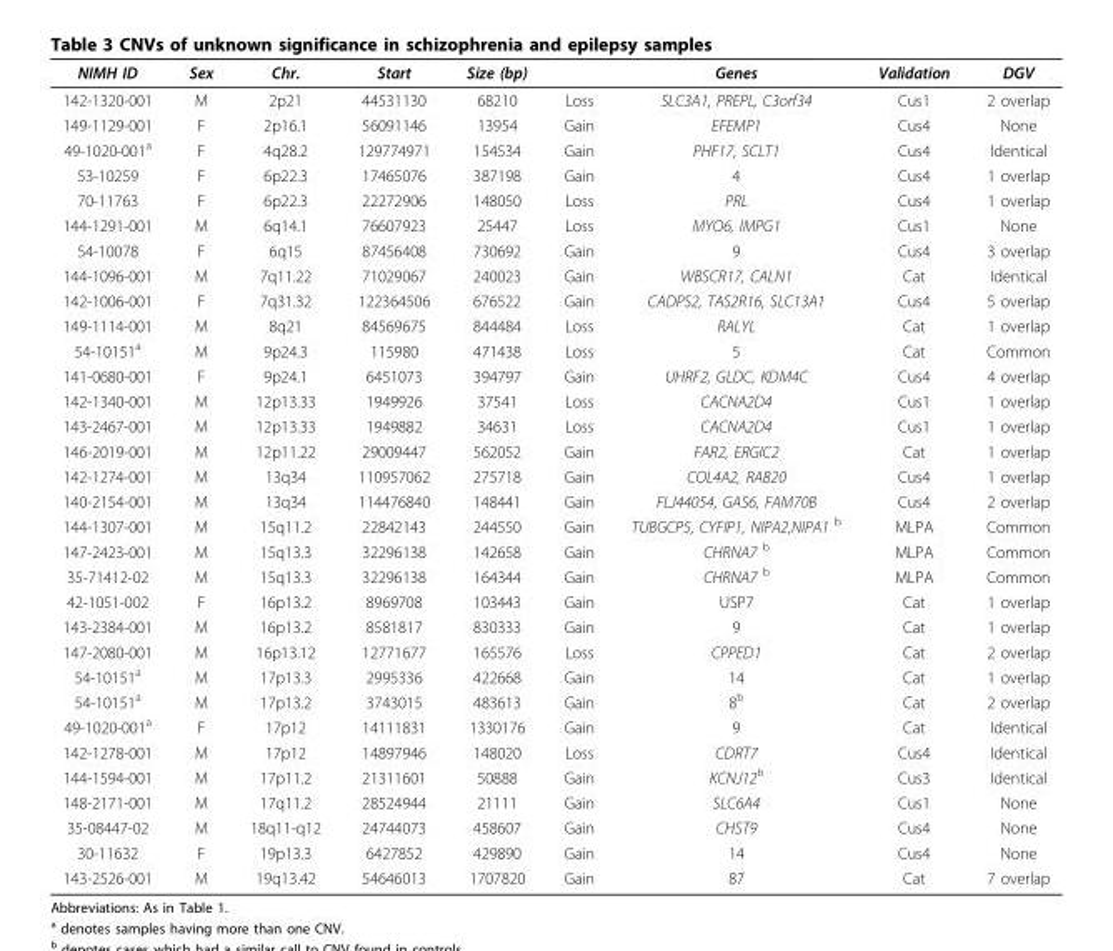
<table><thead><tr><td>NIMH ID</td><td>Sex</td><td>Chr.</td><td>Start</td><td>Size (bp)</td><td></td><td>Genes</td><td>Validation</td><td>DGV</td></tr></thead><tbody><tr><td>142-1320-001</td><td>M</td><td>2p21</td><td>44531130</td><td>68210</td><td>Loss</td><td>SLC3A1, PREPL, C3orf34</td><td>Cus1</td><td>2 overlap</td></tr><tr><td>149-1129-001</td><td>F</td><td>2p16.1</td><td>56091146</td><td>13954</td><td>Gain</td><td>EFEMP1</td><td>Cus4</td><td>None</td></tr><tr><td>49-1020-001<sup>a</sup></td><td>F</td><td>4q28.2</td><td>129774971</td><td>154534</td><td>Gain</td><td>PHF17, SCLT1</td><td>Cus4</td><td>Identical</td></tr><tr><td>53-10259</td><td>F</td><td>6p22.3</td><td>17465076</td><td>387198</td><td>Gain</td><td>4</td><td>Cus4</td><td>1 overlap</td></tr><tr><td>70-11763</td><td>F</td><td>6p22.3</td><td>22272906</td><td>148050</td><td>Loss</td><td>PRL</td><td>Cus4</td><td>1 overlap</td></tr><tr><td>144-1291-001</td><td>M</td><td>6q14.1</td><td>76607923</td><td>25447</td><td>Loss</td><td>MYO6, IMPG1</td><td>Cus1</td><td>None</td></tr><tr><td>54-10078</td><td>F</td><td>6q15</td><td>87456408</td><td>730692</td><td>Gain</td><td>9</td><td>Cus4</td><td>3 overlap</td></tr><tr><td>144-1096-001</td><td>M</td><td>7q11.22</td><td>71029067</td><td>240023</td><td>Gain</td><td>WBSCR17, CALN1</td><td>Cat</td><td>Identical</td></tr><tr><td>142-1006-001</td><td>F</td><td>7q31.32</td><td>122364506</td><td>676522</td><td>Gain</td><td>CADPS2, TAS2R16, SLC13A1</td><td>Cus4</td><td>5 overlap</td></tr><tr><td>149-1114-001</td><td>M</td><td>8q21</td><td>84569675</td><td>844484</td><td>Loss</td><td>RALYL</td><td>Cat</td><td>1 overlap</td></tr><tr><td>54-10151<sup>a</sup></td><td>M</td><td>9p24.3</td><td>115980</td><td>471438</td><td>Loss</td><td>5</td><td>Cat</td><td>Common</td></tr><tr><td>141-0680-001</td><td>F</td><td>9p24.1</td><td>6451073</td><td>394797</td><td>Gain</td><td>UHRF2, GLDC, KDM4C</td><td>Cus4</td><td>4 overlap</td></tr><tr><td>142-1340-001</td><td>M</td><td>12p13.33</td><td>1949926</td><td>37541</td><td>Loss</td><td>CACNA2D4</td><td>Cus1</td><td>1 overlap</td></tr><tr><td>143-2467-001</td><td>M</td><td>12p13.33</td><td>1949882</td><td>34631</td><td>Loss</td><td>CACNA2D4</td><td>Cus1</td><td>1 overlap</td></tr><tr><td>146-2019-001</td><td>M</td><td>12p11.22</td><td>29009447</td><td>562052</td><td>Gain</td><td>FAR2, ERGIC2</td><td>Cat</td><td>1 overlap</td></tr><tr><td>142-1274-001</td><td>M</td><td>13q34</td><td>110957062</td><td>275718</td><td>Gain</td><td>COL4A2, RAB20</td><td>Cus4</td><td>1 overlap</td></tr><tr><td>140-2154-001</td><td>M</td><td>13q34</td><td>114476840</td><td>148441</td><td>Gain</td><td>FLJ44054, GAS6, FAM70B</td><td>Cus4</td><td>2 overlap</td></tr><tr><td>144-1307-001</td><td>M</td><td>15q11.2</td><td>22842143</td><td>244550</td><td>Gain</td><td>TUBGCP5, CYFIP1, NIPA2,NIPA1 <sup>b</sup></td><td>MLPA</td><td>Common</td></tr><tr><td>147-2423-001</td><td>M</td><td>15q13.3</td><td>32296138</td><td>142658</td><td>Gain</td><td>CHRNA7 <sup>b</sup></td><td>MLPA</td><td>Common</td></tr><tr><td>35-71412-02</td><td>M</td><td>15q13.3</td><td>32296138</td><td>164344</td><td>Gain</td><td>CHRNA7 <sup>b</sup></td><td>MLPA</td><td>Common</td></tr><tr><td>42-1051-002</td><td>F</td><td>16p13.2</td><td>8969708</td><td>103443</td><td>Gain</td><td>USP7</td><td>Cat</td><td>1 overlap</td></tr><tr><td>143-2384-001</td><td>M</td><td>16p13.2</td><td>8581817</td><td>830333</td><td>Gain</td><td>9</td><td>Cat</td><td>1 overlap</td></tr><tr><td>147-2080-001</td><td>M</td><td>16p13.12</td><td>12771677</td><td>165576</td><td>Loss</td><td>CPPED1</td><td>Cat</td><td>2 overlap</td></tr><tr><td>54-10151<sup>a</sup></td><td>M</td><td>17p13.3</td><td>2995336</td><td>422668</td><td>Gain</td><td>14</td><td>Cat</td><td>1 overlap</td></tr><tr><td>54-10151<sup>a</sup></td><td>M</td><td>17p13.2</td><td>3743015</td><td>483613</td><td>Gain</td><td>8<sup>b</sup></td><td>Cat</td><td>2 overlap</td></tr><tr><td>49-1020-001<sup>a</sup></td><td>F</td><td>17p12</td><td>14111831</td><td>1330176</td><td>Gain</td><td>9</td><td>Cat</td><td>Identical</td></tr><tr><td>142-1278-001</td><td>M</td><td>17p12</td><td>14897946</td><td>148020</td><td>Loss</td><td>CDRT7</td><td>Cus4</td><td>Identical</td></tr><tr><td>144-1594-001</td><td>M</td><td>17p11.2</td><td>21311601</td><td>50888</td><td>Gain</td><td>KCNJ12<sup>b</sup></td><td>Cus3</td><td>Identical</td></tr><tr><td>148-2171-001</td><td>M</td><td>17q11.2</td><td>28524944</td><td>21111</td><td>Gain</td><td>SLC6A4</td><td>Cus1</td><td>None</td></tr><tr><td>35-08447-02</td><td>M</td><td>18q11-q12</td><td>24744073</td><td>458607</td><td>Gain</td><td>CHST9</td><td>Cus4</td><td>None</td></tr><tr><td>30-11632</td><td>F</td><td>19p13.3</td><td>6427852</td><td>429890</td><td>Gain</td><td>14</td><td>Cus4</td><td>None</td></tr><tr><td>143-2526-001</td><td>M</td><td>19q13.42</td><td>54646013</td><td>1707820</td><td>Gain</td><td>87</td><td>Cat</td><td>7 overlap</td></tr></tbody></table>